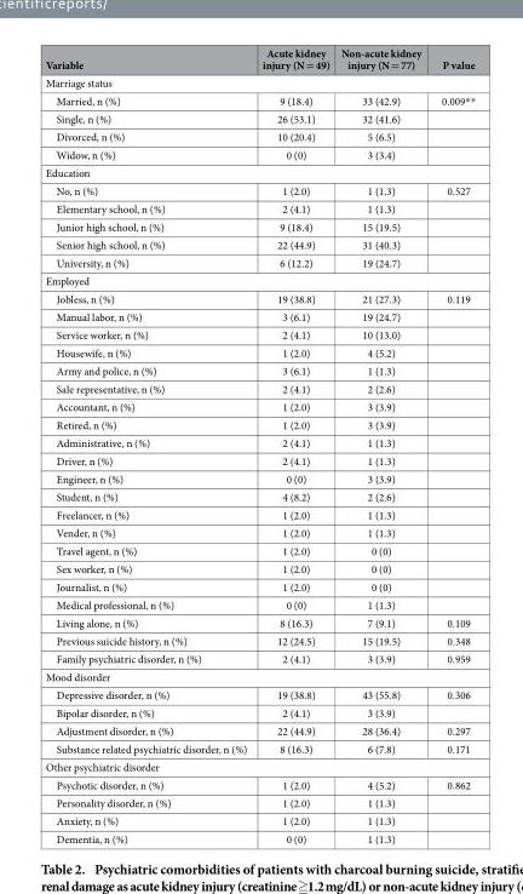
<table><thead><tr><td>Variable</td><td>Acute kidney injury (N = 49)</td><td>Non-acute kidney injury (N = 77)</td><td>P value</td></tr></thead><tbody><tr><td colspan="4">Marriage status</td></tr><tr><td>Married, n (%)</td><td>9 (18.4)</td><td>33 (42.9)</td><td>0.009* *</td></tr><tr><td>Single, n (%)</td><td>26 (53.1)</td><td>32 (41.6)</td><td></td></tr><tr><td>Divorced, n (%)</td><td>10 (20.4)</td><td>5 (6.5)</td><td></td></tr><tr><td>Widow, n (%)</td><td>0 (0)</td><td>3 (3.4)</td><td></td></tr><tr><td colspan="4">Education</td></tr><tr><td>No, n (%)</td><td>1 (2.0)</td><td>1 (1.3)</td><td>0.527</td></tr><tr><td>Elementary school, n (%)</td><td>2 (4.1)</td><td>1 (1.3)</td><td></td></tr><tr><td>Junior high school, n (%)</td><td>9 (18.4)</td><td>15 (19.5)</td><td></td></tr><tr><td>Senior high school, n (%)</td><td>22 (44.9)</td><td>31 (40.3)</td><td></td></tr><tr><td>University, n (%)</td><td>6 (12.2)</td><td>19 (24.7)</td><td></td></tr><tr><td colspan="4">Employed</td></tr><tr><td>Jobless, n (%)</td><td>19 (38.8)</td><td>21 (27.3)</td><td>0.119</td></tr><tr><td>Manual labor, n (%)</td><td>3 (6.1)</td><td>19 (24.7)</td><td></td></tr><tr><td>Service worker, n (%)</td><td>2 (4.1)</td><td>10 (13.0)</td><td></td></tr><tr><td>Housewife, n (%)</td><td>1 (2.0)</td><td>4 (5.2)</td><td></td></tr><tr><td>Army and police, n (%)</td><td>3 (6.1)</td><td>1 (1.3)</td><td></td></tr><tr><td>Sale representative, n (%)</td><td>2 (4.1)</td><td>2 (2.6)</td><td></td></tr><tr><td>Accountant, n (%)</td><td>1 (2.0)</td><td>3 (3.9)</td><td></td></tr><tr><td>Retired, n (%)</td><td>1 (2.0)</td><td>3 (3.9)</td><td></td></tr><tr><td>Administrative, n (%)</td><td>2 (4.1)</td><td>1 (1.3)</td><td></td></tr><tr><td>Driver, n (%)</td><td>2 (4.1)</td><td>1 (1.3)</td><td></td></tr><tr><td>Engineer, n (%)</td><td>0 (0)</td><td>3 (3.9)</td><td></td></tr><tr><td>Student, n (%)</td><td>4 (8.2)</td><td>2 (2.6)</td><td></td></tr><tr><td>Freelancer, n (%)</td><td>1 (2.0)</td><td>1 (1.3)</td><td></td></tr><tr><td>Vender, n (%)</td><td>1 (2.0)</td><td>1 (1.3)</td><td></td></tr><tr><td>Travel agent, n (%)</td><td>1 (2.0)</td><td>0 (0)</td><td></td></tr><tr><td>Sex worker, n (%)</td><td>1 (2.0)</td><td>0 (0)</td><td></td></tr><tr><td>Journalist, n (%)</td><td>1 (2.0)</td><td>0 (0)</td><td></td></tr><tr><td>Medical professional, n (%)</td><td>0 (0)</td><td>1 (1.3)</td><td></td></tr><tr><td>Living alone, n (%)</td><td>8 (16.3)</td><td>7 (9.1)</td><td>0.109</td></tr><tr><td>Previous suicide history, n (%)</td><td>12 (24.5)</td><td>15 (19.5)</td><td>0.348</td></tr><tr><td>Family psychiatric disorder, n (%)</td><td>2 (4.1)</td><td>3 (3.9)</td><td>0.959</td></tr><tr><td colspan="4">Mood disorder</td></tr><tr><td>Depressive disorder, n (%)</td><td>19 (38.8)</td><td>43 (55.8)</td><td>0.306</td></tr><tr><td>Bipolar disorder, n (%)</td><td>2 (4.1)</td><td>3 (3.9)</td><td></td></tr><tr><td>Adjustment disorder, n (%)</td><td>22 (44.9)</td><td>28 (36.4)</td><td>0.297</td></tr><tr><td>Substance related psychiatric disorder, n (%)</td><td>8 (16.3)</td><td>6 (7.8)</td><td>0.171</td></tr><tr><td colspan="4">Other psychiatric disorder</td></tr><tr><td>Psychotic disorder, n (%)</td><td>1 (2.0)</td><td>4 (5.2)</td><td>0.862</td></tr><tr><td>Personality disorder, n (%)</td><td>1 (2.0)</td><td>1 (1.3)</td><td></td></tr><tr><td>Anxiety, n (%)</td><td>1 (2.0)</td><td>1 (1.3)</td><td></td></tr><tr><td>Dementia, n (%)</td><td>0 (0)</td><td>1 (1.3)</td><td></td></tr></tbody></table>